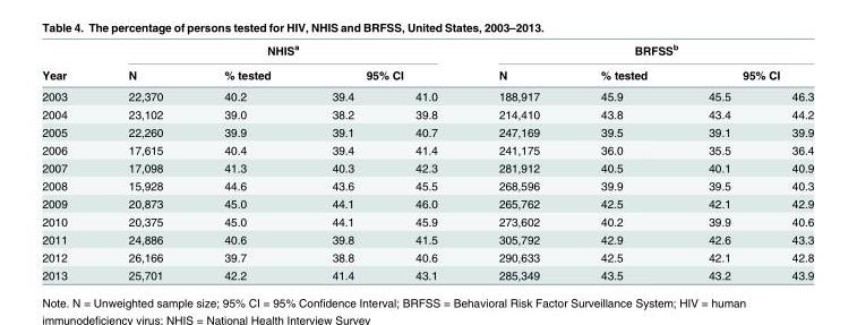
<table><thead><tr><td rowspan="3">Year 2003</td><td colspan="4">NHIS<sup>a</sup></td><td colspan="4">BRFSS<sup>b</sup></td></tr><tr><td rowspan="2">N 22,370</td><td rowspan="2">% tested 40.2</td><td colspan="2">95% CI</td><td rowspan="2">N 188,917</td><td rowspan="2">% tested 45.9</td><td colspan="2">95% CI</td></tr><tr><td>39.4</td><td>41.0</td><td>45.5</td><td>46.3</td></tr></thead><tbody><tr><td>2004</td><td>23,102</td><td>39.0</td><td>38.2</td><td>39.8</td><td>214,410</td><td>43.8</td><td>43.4</td><td>44.2</td></tr><tr><td>2005</td><td>22,260</td><td>39.9</td><td>39.1</td><td>40.7</td><td>247,169</td><td>39.5</td><td>39.1</td><td>39.9</td></tr><tr><td>2006</td><td>17,615</td><td>40.4</td><td>39.4</td><td>41.4</td><td>241,175</td><td>36.0</td><td>35.5</td><td>36.4</td></tr><tr><td>2007</td><td>17,098</td><td>41.3</td><td>40.3</td><td>42.3</td><td>281,912</td><td>40.5</td><td>40.1</td><td>40.9</td></tr><tr><td>2008</td><td>15,928</td><td>44.6</td><td>43.6</td><td>45.5</td><td>268,596</td><td>39.9</td><td>39.5</td><td>40.3</td></tr><tr><td>2009</td><td>20,873</td><td>45.0</td><td>44.1</td><td>46.0</td><td>265,762</td><td>42.5</td><td>42.1</td><td>42.9</td></tr><tr><td>2010</td><td>20,375</td><td>45.0</td><td>44.1</td><td>45.9</td><td>273,602</td><td>40.2</td><td>39.9</td><td>40.6</td></tr><tr><td>2011</td><td>24,886</td><td>40.6</td><td>39.8</td><td>41.5</td><td>305,792</td><td>42.9</td><td>42.6</td><td>43.3</td></tr><tr><td>2012</td><td>26,166</td><td>39.7</td><td>38.8</td><td>40.6</td><td>290,633</td><td>42.5</td><td>42.1</td><td>42.8</td></tr><tr><td>2013</td><td>25,701</td><td>42.2</td><td>41.4</td><td>43.1</td><td>285,349</td><td>43.5</td><td>43.2</td><td>43.9</td></tr></tbody></table>